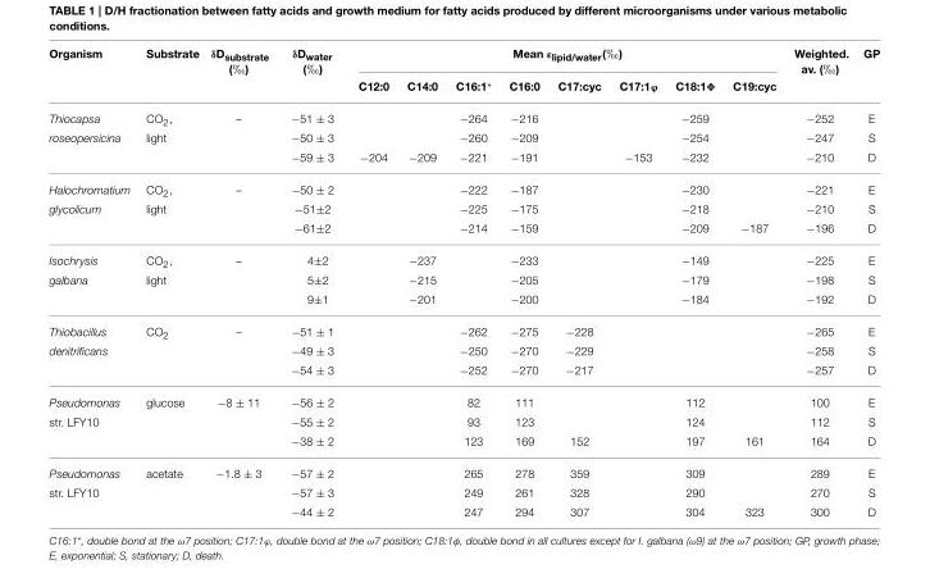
<table><thead><tr><td rowspan="2">Organism</td><td rowspan="2">Substrate</td><td rowspan="2">δD<sub>substrate</sub> (‰)</td><td rowspan="2">δD<sub>water</sub> (‰)</td><td colspan="8">Mean ε<sub>lipid/water</sub>(‰)</td><td rowspan="2">Weighted. av. (‰)</td><td rowspan="2">GP</td></tr><tr><td>C12:0</td><td>C14:0</td><td>C16:1*</td><td>C16:0</td><td>C17:cyc</td><td>C17:1ϕ</td><td>C18:1Φ</td><td>C19:cyc</td></tr></thead><tbody><tr><td>Thiocapsa</td><td>CO<sub>2</sub>,</td><td>–</td><td>−51 ± 3</td><td></td><td></td><td>−264</td><td>−216</td><td></td><td></td><td>−259</td><td></td><td>−252</td><td>E</td></tr><tr><td rowspan="2">roseopersicina</td><td>light</td><td></td><td>−50 ± 3</td><td></td><td></td><td>−260</td><td>−209</td><td></td><td></td><td>−254</td><td></td><td>−247</td><td>S</td></tr><tr><td></td><td></td><td>−59 ± 3</td><td>−204</td><td>−209</td><td>−221</td><td>−191</td><td></td><td>−153</td><td>−232</td><td></td><td>−210</td><td>D</td></tr><tr><td>Halochromatium</td><td>CO<sub>2</sub>,</td><td>–</td><td>−50 ± 2</td><td></td><td></td><td>−222</td><td>−187</td><td></td><td></td><td>−230</td><td></td><td>−221</td><td>E</td></tr><tr><td rowspan="2">glycolicum</td><td>light</td><td></td><td>−51±2</td><td></td><td></td><td>−225</td><td>−175</td><td></td><td></td><td>−218</td><td></td><td>−210</td><td>S</td></tr><tr><td></td><td></td><td>−61±2</td><td></td><td></td><td>−214</td><td>−159</td><td></td><td></td><td>−209</td><td>−187</td><td>−196</td><td>D</td></tr><tr><td>Isochrysis</td><td>CO<sub>2</sub>,</td><td>–</td><td>4±2</td><td></td><td>−237</td><td></td><td>−233</td><td></td><td></td><td>−149</td><td></td><td>−225</td><td>E</td></tr><tr><td rowspan="2">galbana</td><td>light</td><td></td><td>5±2</td><td></td><td>−215</td><td></td><td>−205</td><td></td><td></td><td>−179</td><td></td><td>−198</td><td>S</td></tr><tr><td></td><td></td><td>9±1</td><td></td><td>−201</td><td></td><td>−200</td><td></td><td></td><td>−184</td><td></td><td>−192</td><td>D</td></tr><tr><td>Thiobacillus</td><td>CO<sub>2</sub></td><td>–</td><td>−51 ± 1</td><td></td><td></td><td>−262</td><td>−275</td><td>−228</td><td></td><td></td><td></td><td>−265</td><td>E</td></tr><tr><td rowspan="2">denitrificans</td><td></td><td></td><td>−49 ± 3</td><td></td><td></td><td>−250</td><td>−270</td><td>−229</td><td></td><td></td><td></td><td>−258</td><td>S</td></tr><tr><td></td><td></td><td>−54 ± 3</td><td></td><td></td><td>−252</td><td>−270</td><td>−217</td><td></td><td></td><td></td><td>−257</td><td>D</td></tr><tr><td>Pseudomonas</td><td>glucose</td><td>−8 ± 11</td><td>−56 ± 2</td><td></td><td></td><td>82</td><td>111</td><td></td><td></td><td>112</td><td></td><td>100</td><td>E</td></tr><tr><td rowspan="2">str. LFY10</td><td></td><td></td><td>−55 ± 2</td><td></td><td></td><td>93</td><td>123</td><td></td><td></td><td>124</td><td></td><td>112</td><td>S</td></tr><tr><td></td><td></td><td>−38 ± 2</td><td></td><td></td><td>123</td><td>169</td><td>152</td><td></td><td>197</td><td>161</td><td>164</td><td>D</td></tr><tr><td>Pseudomonas</td><td>acetate</td><td>−1.8 ± 3</td><td>−57 ± 2</td><td></td><td></td><td>265</td><td>278</td><td>359</td><td></td><td>309</td><td></td><td>289</td><td>E</td></tr><tr><td rowspan="2">str. LFY10</td><td></td><td></td><td>−57 ± 3</td><td></td><td></td><td>249</td><td>261</td><td>328</td><td></td><td>290</td><td></td><td>270</td><td>S</td></tr><tr><td></td><td></td><td>−44 ± 2</td><td></td><td></td><td>247</td><td>294</td><td>307</td><td></td><td>304</td><td>323</td><td>300</td><td>D</td></tr></tbody></table>